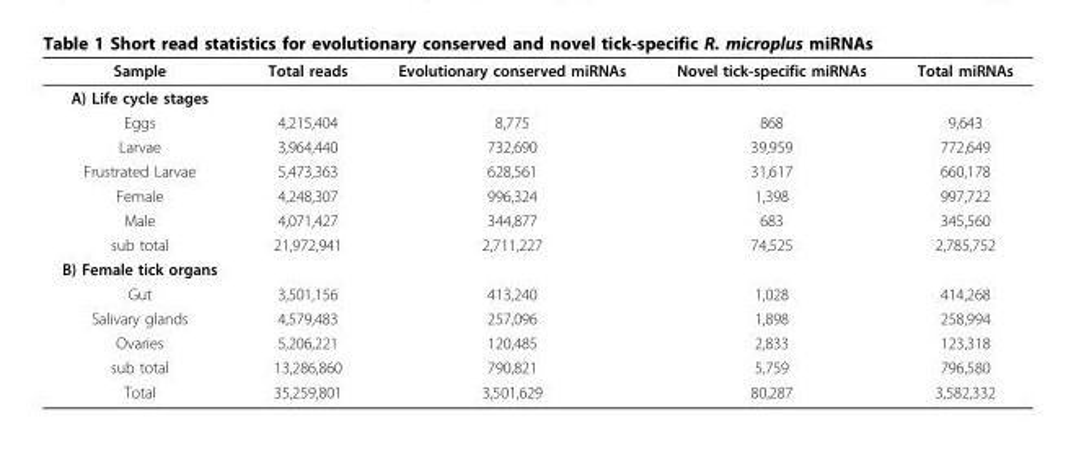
<table><thead><tr><td>Sample</td><td>Total reads</td><td>Evolutionary conserved miRNAs</td><td>Novel tick-specific miRNAs</td><td>Total miRNAs</td></tr></thead><tbody><tr><td colspan="5">A) Life cycle stages</td></tr><tr><td>Eggs</td><td>4,215,404</td><td>8,775</td><td>868</td><td>9,643</td></tr><tr><td>Larvae</td><td>3,964,440</td><td>732,690</td><td>39,959</td><td>772,649</td></tr><tr><td>Frustrated Larvae</td><td>5,473,363</td><td>628,561</td><td>31,617</td><td>660,178</td></tr><tr><td>Female</td><td>4,248,307</td><td>996,324</td><td>1,398</td><td>997,722</td></tr><tr><td>Male</td><td>4,071,427</td><td>344,877</td><td>683</td><td>345,560</td></tr><tr><td>sub total</td><td>21,972,941</td><td>2,711,227</td><td>74,525</td><td>2,785,752</td></tr><tr><td colspan="5">B) Female tick organs</td></tr><tr><td>Gut</td><td>3,501,156</td><td>413,240</td><td>1,028</td><td>414,268</td></tr><tr><td>Salivary glands</td><td>4,579,483</td><td>257,096</td><td>1,898</td><td>258,994</td></tr><tr><td>Ovaries</td><td>5,206,221</td><td>120,485</td><td>2,833</td><td>123,318</td></tr><tr><td>sub total</td><td>13,286,860</td><td>790,821</td><td>5,759</td><td>796,580</td></tr><tr><td>Total</td><td>35,259,801</td><td>3,501,629</td><td>80,287</td><td>3,582,332</td></tr></tbody></table>